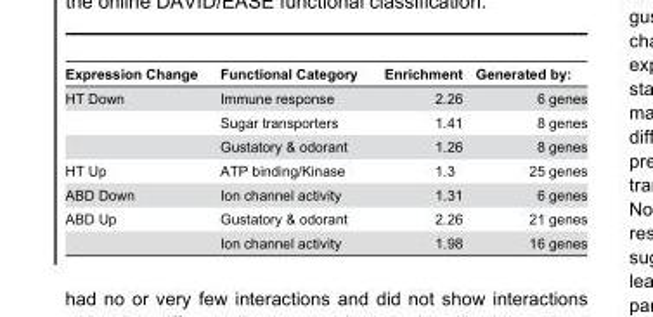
<table><thead><tr><td>Expression Change</td><td>Functional Category</td><td>Enrichment</td><td>Generated by:</td></tr></thead><tbody><tr><td rowspan="3">HT Down</td><td>Immune response</td><td>2.26</td><td>6 genes</td></tr><tr><td>Sugar transporters</td><td>1.41</td><td>8 genes</td></tr><tr><td>Gustatory &amp; odorant</td><td>1.26</td><td>8 genes</td></tr><tr><td>HT Up</td><td>ATP binding/Kinase</td><td>1.3</td><td>25 genes</td></tr><tr><td>ABD Down</td><td>Ion channel activity</td><td>1.31</td><td>6 genes</td></tr><tr><td rowspan="2">ABD Up</td><td>Gustatory &amp; odorant</td><td>2.26</td><td>21 genes</td></tr><tr><td>Ion channel activity</td><td>1.98</td><td>16 genes</td></tr></tbody></table>